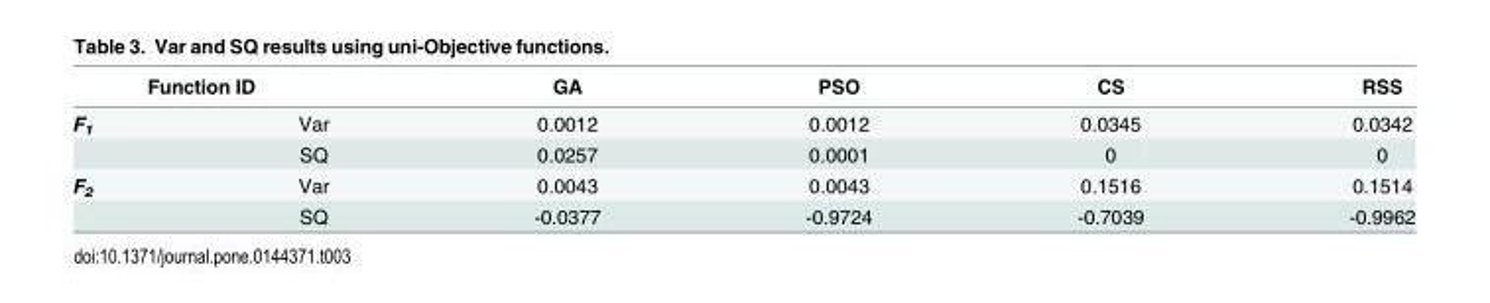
<table><thead><tr><td colspan="2">Function ID</td><td rowspan="2">GA 0.0012</td><td rowspan="2">PSO 0.0012</td><td rowspan="2">CS 0.0345</td><td rowspan="2">RSS 0.0342</td></tr><tr><td>F<sub>1</sub></td><td>Var</td></tr></thead><tbody><tr><td></td><td>SQ</td><td>0.0257</td><td>0.0001</td><td>0</td><td>0</td></tr><tr><td rowspan="2">F<sub>2</sub></td><td>Var</td><td>0.0043</td><td>0.0043</td><td>0.1516</td><td>0.1514</td></tr><tr><td>SQ</td><td>-0.0377</td><td>-0.9724</td><td>-0.7039</td><td>-0.9962</td></tr></tbody></table>